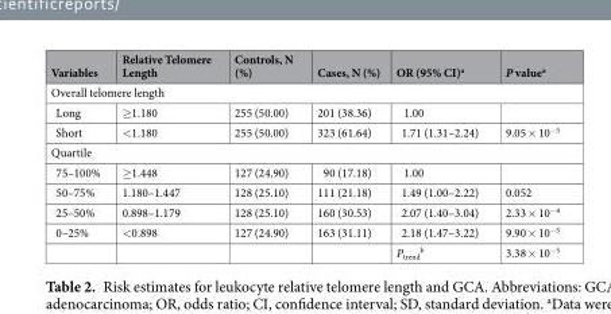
<table><thead><tr><td>Variables</td><td>Relative Telomere Length</td><td>Controls, N (%)</td><td>Cases, N (%)</td><td>OR (95% CI)<sup>a</sup></td><td>P value<sup>a</sup></td></tr></thead><tbody><tr><td colspan="6">Overall telomere length</td></tr><tr><td>Long</td><td>≥1.180</td><td>255 (50.00)</td><td>201 (38.36)</td><td>1.00</td><td></td></tr><tr><td>Short</td><td>&lt;1.180</td><td>255 (50.00)</td><td>323 (61.64)</td><td>1.71 (1.31–2.24)</td><td>9.05 × 10<sup>−5</sup></td></tr><tr><td colspan="6">Quartile</td></tr><tr><td>75–100%</td><td>≥1.448</td><td>127 (24.90)</td><td>90 (17.18)</td><td>1.00</td><td></td></tr><tr><td>50–75%</td><td>1.180–1.447</td><td>128 (25.10)</td><td>111 (21.18)</td><td>1.49 (1.00–2.22)</td><td>0.052</td></tr><tr><td>25–50%</td><td>0.898–1.179</td><td>128 (25.10)</td><td>160 (30.53)</td><td>2.07 (1.40–3.04)</td><td>2.33 × 10<sup>−4</sup></td></tr><tr><td rowspan="2">0–25%</td><td>&lt;0.898</td><td>127 (24.90)</td><td>163 (31.11)</td><td>2.18 (1.47–3.22)</td><td>9.90 × 10<sup>−5</sup></td></tr><tr><td></td><td></td><td></td><td>P<sub>trend</sub> <sup>b</sup></td><td>3.38 × 10<sup>−5</sup></td></tr></tbody></table>